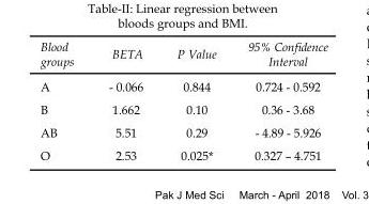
<table><thead><tr><td>Blood groups</td><td>BETA</td><td>P Value</td><td>95% Confidence Interval</td></tr></thead><tbody><tr><td>A</td><td>- 0.066</td><td>0.844</td><td>0.724 - 0.592</td></tr><tr><td>B</td><td>1.662</td><td>0.10</td><td>0.36 - 3.68</td></tr><tr><td>AB</td><td>5.51</td><td>0.29</td><td>- 4.89 - 5.926</td></tr><tr><td>O</td><td>2.53</td><td>0.025*</td><td>0.327 – 4.751</td></tr></tbody></table>